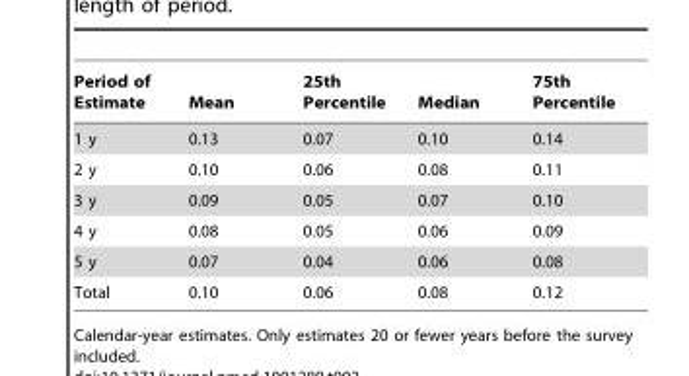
<table><thead><tr><td>Period of Estimate</td><td>Mean</td><td>25th Percentile</td><td>Median</td><td>75th Percentile</td></tr></thead><tbody><tr><td>1 y</td><td>0.13</td><td>0.07</td><td>0.10</td><td>0.14</td></tr><tr><td>2 y</td><td>0.10</td><td>0.06</td><td>0.08</td><td>0.11</td></tr><tr><td>3 y</td><td>0.09</td><td>0.05</td><td>0.07</td><td>0.10</td></tr><tr><td>4 y</td><td>0.08</td><td>0.05</td><td>0.06</td><td>0.09</td></tr><tr><td>5 y</td><td>0.07</td><td>0.04</td><td>0.06</td><td>0.08</td></tr><tr><td>Total</td><td>0.10</td><td>0.06</td><td>0.08</td><td>0.12</td></tr></tbody></table>